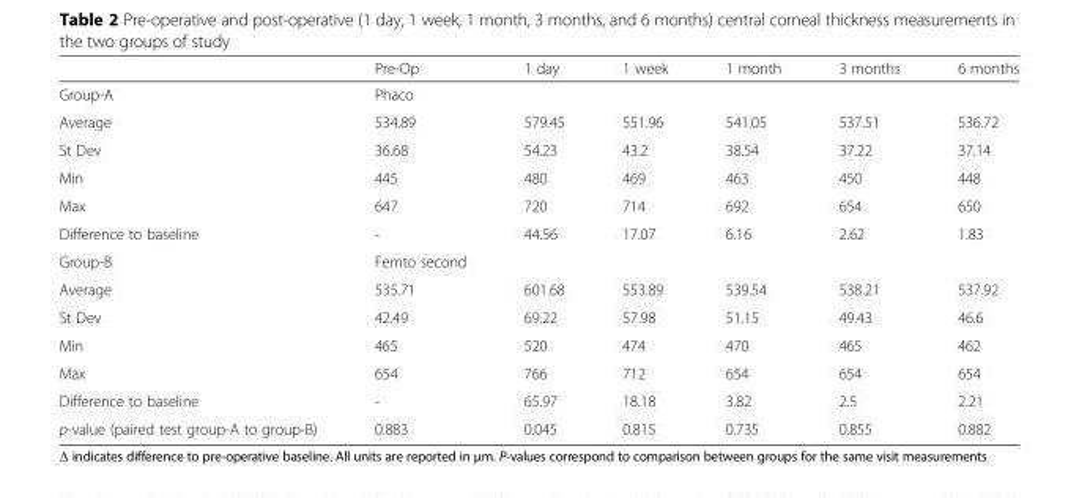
<table><thead><tr><td></td><td>Pre-Op</td><td>1 day</td><td>1 week</td><td>1 month</td><td>3 months</td><td>6 months</td></tr></thead><tbody><tr><td>Group-A</td><td>Phaco</td><td></td><td></td><td></td><td></td><td></td></tr><tr><td>Average</td><td>534.89</td><td>579.45</td><td>551.96</td><td>541.05</td><td>537.51</td><td>536.72</td></tr><tr><td>St Dev</td><td>36.68</td><td>54.23</td><td>43.2</td><td>38.54</td><td>37.22</td><td>37.14</td></tr><tr><td>Min</td><td>445</td><td>480</td><td>469</td><td>463</td><td>450</td><td>448</td></tr><tr><td>Max</td><td>647</td><td>720</td><td>714</td><td>692</td><td>654</td><td>650</td></tr><tr><td>Difference to baseline</td><td>-</td><td>44.56</td><td>17.07</td><td>6.16</td><td>2.62</td><td>1.83</td></tr><tr><td>Group-B</td><td>Femto second</td><td></td><td></td><td></td><td></td><td></td></tr><tr><td>Average</td><td>535.71</td><td>601.68</td><td>553.89</td><td>539.54</td><td>538.21</td><td>537.92</td></tr><tr><td>St Dev</td><td>42.49</td><td>69.22</td><td>57.98</td><td>51.15</td><td>49.43</td><td>46.6</td></tr><tr><td>Min</td><td>465</td><td>520</td><td>474</td><td>470</td><td>465</td><td>462</td></tr><tr><td>Max</td><td>654</td><td>766</td><td>712</td><td>654</td><td>654</td><td>654</td></tr><tr><td>Difference to baseline</td><td>-</td><td>65.97</td><td>18.18</td><td>3.82</td><td>2.5</td><td>2.21</td></tr><tr><td>p-value (paired test group-A to group-B)</td><td>0.883</td><td>0.045</td><td>0.815</td><td>0.735</td><td>0.855</td><td>0.882</td></tr></tbody></table>